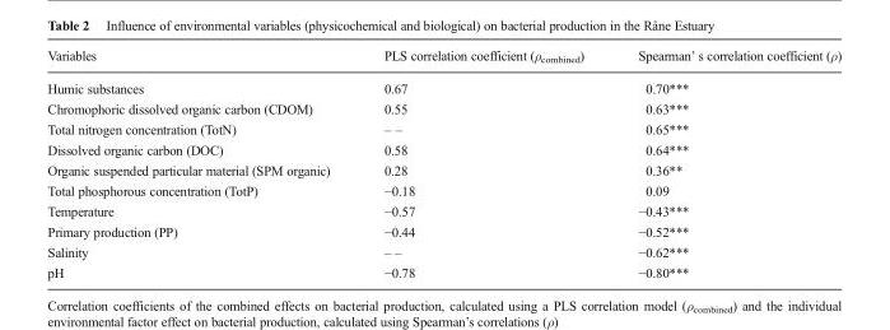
<table><thead><tr><td>Variables</td><td>PLS correlation coefficient (ρ<sub>combined</sub>)</td><td>Spearman’ s correlation coefficient (ρ)</td></tr></thead><tbody><tr><td>Humic substances</td><td>0.67</td><td>0.70***</td></tr><tr><td>Chromophoric dissolved organic carbon (CDOM)</td><td>0.55</td><td>0.63***</td></tr><tr><td>Total nitrogen concentration (TotN)</td><td>– –</td><td>0.65***</td></tr><tr><td>Dissolved organic carbon (DOC)</td><td>0.58</td><td>0.64***</td></tr><tr><td>Organic suspended particular material (SPM organic)</td><td>0.28</td><td>0.36**</td></tr><tr><td>Total phosphorous concentration (TotP)</td><td>−0.18</td><td>0.09</td></tr><tr><td>Temperature</td><td>−0.57</td><td>−0.43***</td></tr><tr><td>Primary production (PP)</td><td>−0.44</td><td>−0.52***</td></tr><tr><td>Salinity</td><td>– –</td><td>−0.62***</td></tr><tr><td>pH</td><td>−0.78</td><td>−0.80***</td></tr></tbody></table>